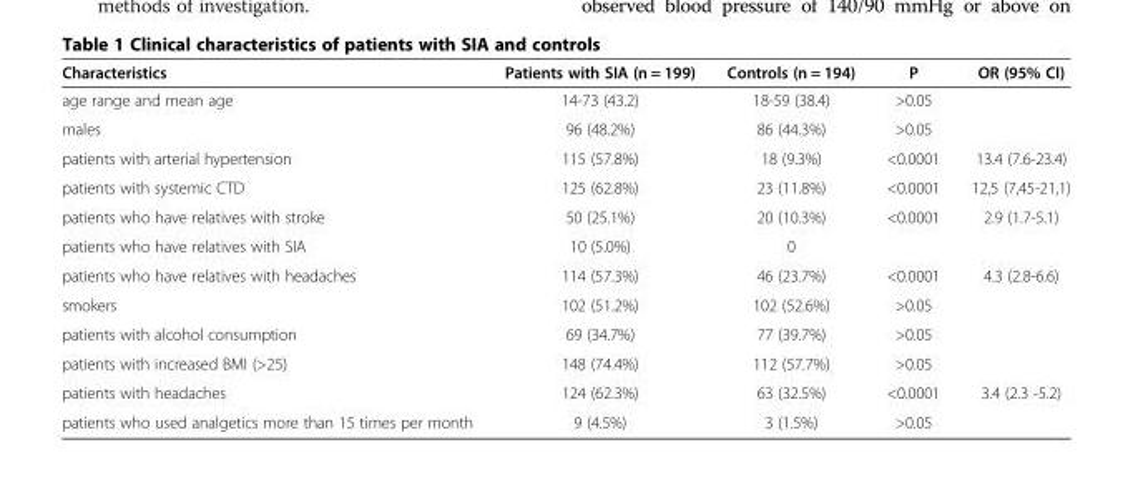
<table><thead><tr><td>Characteristics</td><td>Patients with SIA (n = 199)</td><td>Controls (n = 194)</td><td>P</td><td>OR (95% CI)</td></tr></thead><tbody><tr><td>age range and mean age</td><td>14-73 (43.2)</td><td>18-59 (38.4)</td><td>&gt;0.05</td><td></td></tr><tr><td>males</td><td>96 (48.2%)</td><td>86 (44.3%)</td><td>&gt;0.05</td><td></td></tr><tr><td>patients with arterial hypertension</td><td>115 (57.8%)</td><td>18 (9.3%)</td><td>&lt;0.0001</td><td>13.4 (7.6-23.4)</td></tr><tr><td>patients with systemic CTD</td><td>125 (62.8%)</td><td>23 (11.8%)</td><td>&lt;0.0001</td><td>12,5 (7,45-21,1)</td></tr><tr><td>patients who have relatives with stroke</td><td>50 (25.1%)</td><td>20 (10.3%)</td><td>&lt;0.0001</td><td>2.9 (1.7-5.1)</td></tr><tr><td>patients who have relatives with SIA</td><td>10 (5.0%)</td><td>0</td><td></td><td></td></tr><tr><td>patients who have relatives with headaches</td><td>114 (57.3%)</td><td>46 (23.7%)</td><td>&lt;0.0001</td><td>4.3 (2.8-6.6)</td></tr><tr><td>smokers</td><td>102 (51.2%)</td><td>102 (52.6%)</td><td>&gt;0.05</td><td></td></tr><tr><td>patients with alcohol consumption</td><td>69 (34.7%)</td><td>77 (39.7%)</td><td>&gt;0.05</td><td></td></tr><tr><td>patients with increased BMI (&gt;25)</td><td>148 (74.4%)</td><td>112 (57.7%)</td><td>&gt;0.05</td><td></td></tr><tr><td>patients with headaches</td><td>124 (62.3%)</td><td>63 (32.5%)</td><td>&lt;0.0001</td><td>3.4 (2.3 -5.2)</td></tr><tr><td>patients who used analgetics more than 15 times per month</td><td>9 (4.5%)</td><td>3 (1.5%)</td><td>&gt;0.05</td><td></td></tr></tbody></table>